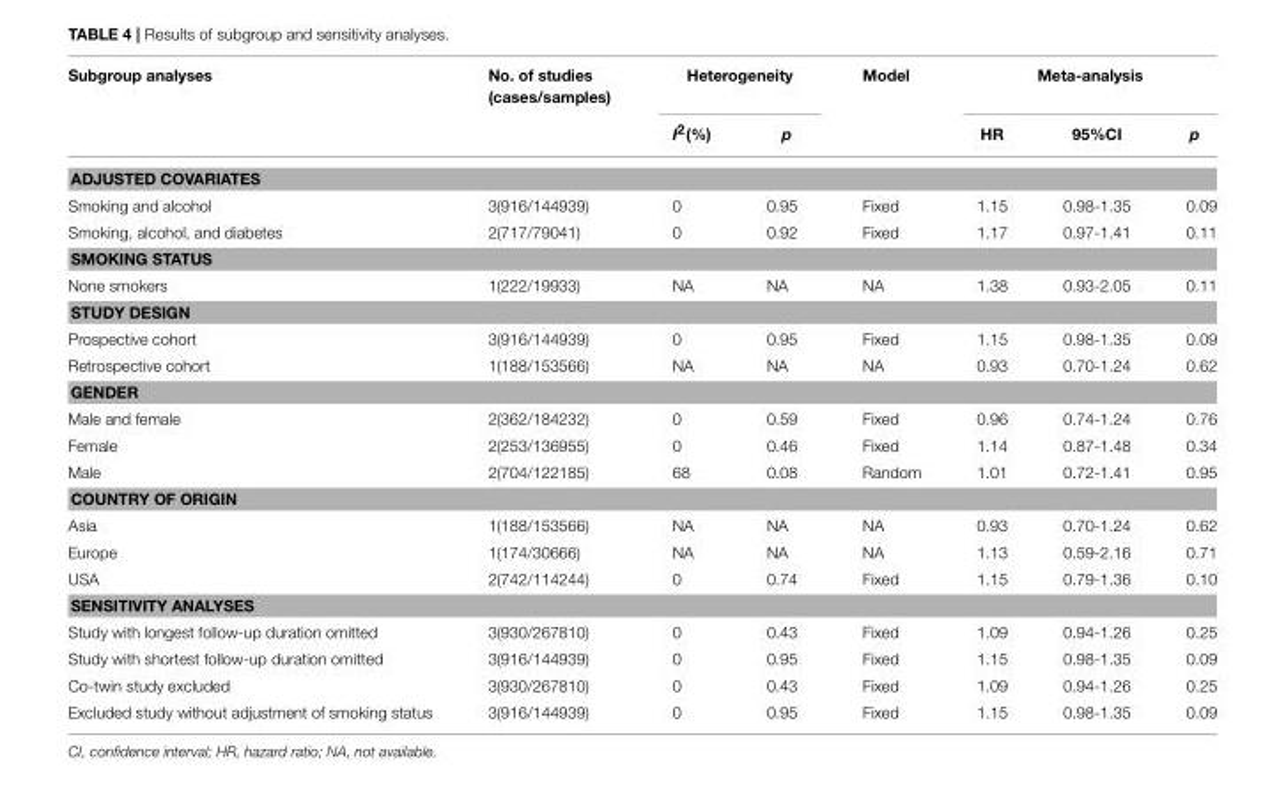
<table><thead><tr><td rowspan="2">Subgroup analyses</td><td rowspan="2">No. of studies (cases/samples)</td><td colspan="2">Heterogeneity</td><td rowspan="2">Model</td><td colspan="3">Meta-analysis</td></tr><tr><td>I<sup>2</sup>(%)</td><td>p</td><td>HR</td><td>95%CI</td><td>p</td></tr></thead><tbody><tr><td colspan="8">ADJUSTED COVARIATES</td></tr><tr><td>Smoking and alcohol</td><td>3(916/144939)</td><td>0</td><td>0.95</td><td>Fixed</td><td>1.15</td><td>0.98-1.35</td><td>0.09</td></tr><tr><td>Smoking, alcohol, and diabetes</td><td>2(717/79041)</td><td>0</td><td>0.92</td><td>Fixed</td><td>1.17</td><td>0.97-1.41</td><td>0.11</td></tr><tr><td colspan="8">SMOKING STATUS</td></tr><tr><td>None smokers</td><td>1(222/19933)</td><td>NA</td><td>NA</td><td>NA</td><td>1.38</td><td>0.93-2.05</td><td>0.11</td></tr><tr><td colspan="8">STUDY DESIGN</td></tr><tr><td>Prospective cohort</td><td>3(916/144939)</td><td>0</td><td>0.95</td><td>Fixed</td><td>1.15</td><td>0.98-1.35</td><td>0.09</td></tr><tr><td>Retrospective cohort</td><td>1(188/153566)</td><td>NA</td><td>NA</td><td>NA</td><td>0.93</td><td>0.70-1.24</td><td>0.62</td></tr><tr><td colspan="8">GENDER</td></tr><tr><td>Male and female</td><td>2(362/184232)</td><td>0</td><td>0.59</td><td>Fixed</td><td>0.96</td><td>0.74-1.24</td><td>0.76</td></tr><tr><td>Female</td><td>2(253/136955)</td><td>0</td><td>0.46</td><td>Fixed</td><td>1.14</td><td>0.87-1.48</td><td>0.34</td></tr><tr><td>Male</td><td>2(704/122185)</td><td>68</td><td>0.08</td><td>Random</td><td>1.01</td><td>0.72-1.41</td><td>0.95</td></tr><tr><td colspan="8">COUNTRY OF ORIGIN</td></tr><tr><td>Asia</td><td>1(188/153566)</td><td>NA</td><td>NA</td><td>NA</td><td>0.93</td><td>0.70-1.24</td><td>0.62</td></tr><tr><td>Europe</td><td>1(174/30666)</td><td>NA</td><td>NA</td><td>NA</td><td>1.13</td><td>0.59-2.16</td><td>0.71</td></tr><tr><td>USA</td><td>2(742/114244)</td><td>0</td><td>0.74</td><td>Fixed</td><td>1.15</td><td>0.79-1.36</td><td>0.10</td></tr><tr><td colspan="8">SENSITIVITY ANALYSES</td></tr><tr><td>Study with longest follow-up duration omitted</td><td>3(930/267810)</td><td>0</td><td>0.43</td><td>Fixed</td><td>1.09</td><td>0.94-1.26</td><td>0.25</td></tr><tr><td>Study with shortest follow-up duration omitted</td><td>3(916/144939)</td><td>0</td><td>0.95</td><td>Fixed</td><td>1.15</td><td>0.98-1.35</td><td>0.09</td></tr><tr><td>Co-twin study excluded</td><td>3(930/267810)</td><td>0</td><td>0.43</td><td>Fixed</td><td>1.09</td><td>0.94-1.26</td><td>0.25</td></tr><tr><td>Excluded study without adjustment of smoking status</td><td>3(916/144939)</td><td>0</td><td>0.95</td><td>Fixed</td><td>1.15</td><td>0.98-1.35</td><td>0.09</td></tr></tbody></table>